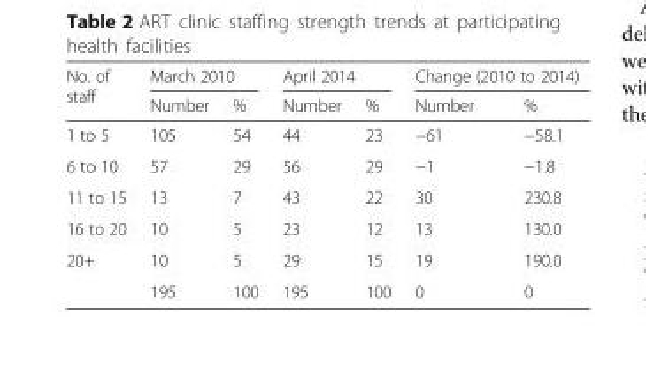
<table><thead><tr><td rowspan="2">No. of staff</td><td colspan="2">March 2010</td><td colspan="2">April 2014</td><td colspan="2">Change (2010 to 2014)</td></tr><tr><td>Number</td><td>%</td><td>Number</td><td>%</td><td>Number</td><td>%</td></tr></thead><tbody><tr><td>1 to 5</td><td>105</td><td>54</td><td>44</td><td>23</td><td>−61</td><td>−58.1</td></tr><tr><td>6 to 10</td><td>57</td><td>29</td><td>56</td><td>29</td><td>−1</td><td>−1.8</td></tr><tr><td>11 to 15</td><td>13</td><td>7</td><td>43</td><td>22</td><td>30</td><td>230.8</td></tr><tr><td>16 to 20</td><td>10</td><td>5</td><td>23</td><td>12</td><td>13</td><td>130.0</td></tr><tr><td rowspan="2">20+</td><td>10</td><td>5</td><td>29</td><td>15</td><td>19</td><td>190.0</td></tr><tr><td>195</td><td>100</td><td>195</td><td>100</td><td>0</td><td>0</td></tr></tbody></table>